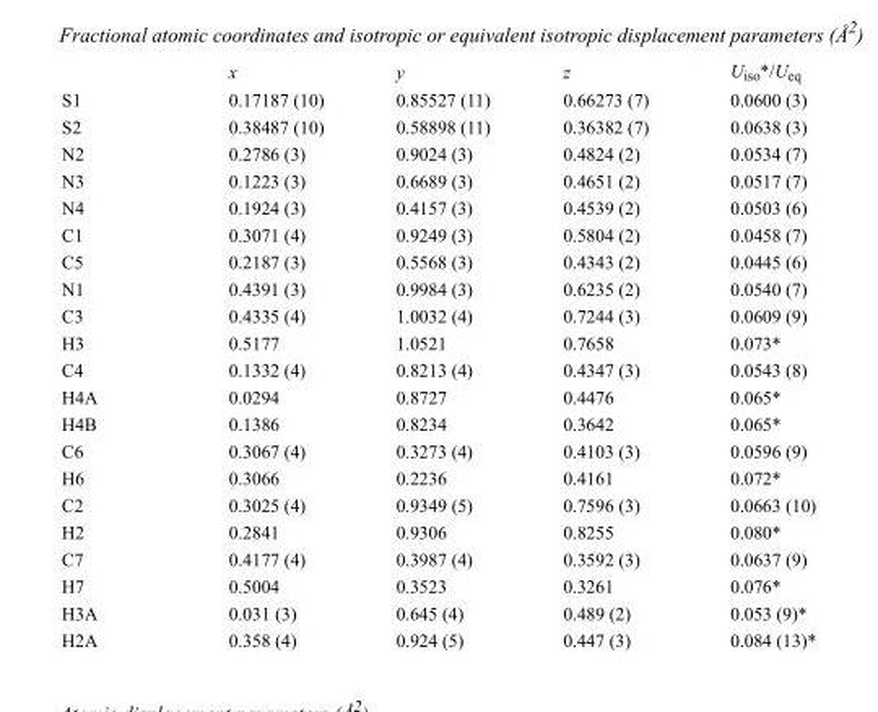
<table><thead><tr><td></td><td>x</td><td>y</td><td>z</td><td>U<sub>iso</sub>*/U<sub>eq</sub></td></tr></thead><tbody><tr><td>S1</td><td>0.17187 (10)</td><td>0.85527 (11)</td><td>0.66273 (7)</td><td>0.0600 (3)</td></tr><tr><td>S2</td><td>0.38487 (10)</td><td>0.58898 (11)</td><td>0.36382 (7)</td><td>0.0638 (3)</td></tr><tr><td>N2</td><td>0.2786 (3)</td><td>0.9024 (3)</td><td>0.4824 (2)</td><td>0.0534 (7)</td></tr><tr><td>N3</td><td>0.1223 (3)</td><td>0.6689 (3)</td><td>0.4651 (2)</td><td>0.0517 (7)</td></tr><tr><td>N4</td><td>0.1924 (3)</td><td>0.4157 (3)</td><td>0.4539 (2)</td><td>0.0503 (6)</td></tr><tr><td>C1</td><td>0.3071 (4)</td><td>0.9249 (3)</td><td>0.5804 (2)</td><td>0.0458 (7)</td></tr><tr><td>C5</td><td>0.2187 (3)</td><td>0.5568 (3)</td><td>0.4343 (2)</td><td>0.0445 (6)</td></tr><tr><td>N1</td><td>0.4391 (3)</td><td>0.9984 (3)</td><td>0.6235 (2)</td><td>0.0540 (7)</td></tr><tr><td>C3</td><td>0.4335 (4)</td><td>1.0032 (4)</td><td>0.7244 (3)</td><td>0.0609 (9)</td></tr><tr><td>H3</td><td>0.5177</td><td>1.0521</td><td>0.7658</td><td>0.073*</td></tr><tr><td>C4</td><td>0.1332 (4)</td><td>0.8213 (4)</td><td>0.4347 (3)</td><td>0.0543 (8)</td></tr><tr><td>H4A</td><td>0.0294</td><td>0.8727</td><td>0.4476</td><td>0.065*</td></tr><tr><td>H4B</td><td>0.1386</td><td>0.8234</td><td>0.3642</td><td>0.065*</td></tr><tr><td>C6</td><td>0.3067 (4)</td><td>0.3273 (4)</td><td>0.4103 (3)</td><td>0.0596 (9)</td></tr><tr><td>H6</td><td>0.3066</td><td>0.2236</td><td>0.4161</td><td>0.072*</td></tr><tr><td>C2</td><td>0.3025 (4)</td><td>0.9349 (5)</td><td>0.7596 (3)</td><td>0.0663 (10)</td></tr><tr><td>H2</td><td>0.2841</td><td>0.9306</td><td>0.8255</td><td>0.080*</td></tr><tr><td>C7</td><td>0.4177 (4)</td><td>0.3987 (4)</td><td>0.3592 (3)</td><td>0.0637 (9)</td></tr><tr><td>H7</td><td>0.5004</td><td>0.3523</td><td>0.3261</td><td>0.076*</td></tr><tr><td>H3A</td><td>0.031 (3)</td><td>0.645 (4)</td><td>0.489 (2)</td><td>0.053 (9)*</td></tr><tr><td>H2A</td><td>0.358 (4)</td><td>0.924 (5)</td><td>0.447 (3)</td><td>0.084 (13)*</td></tr></tbody></table>